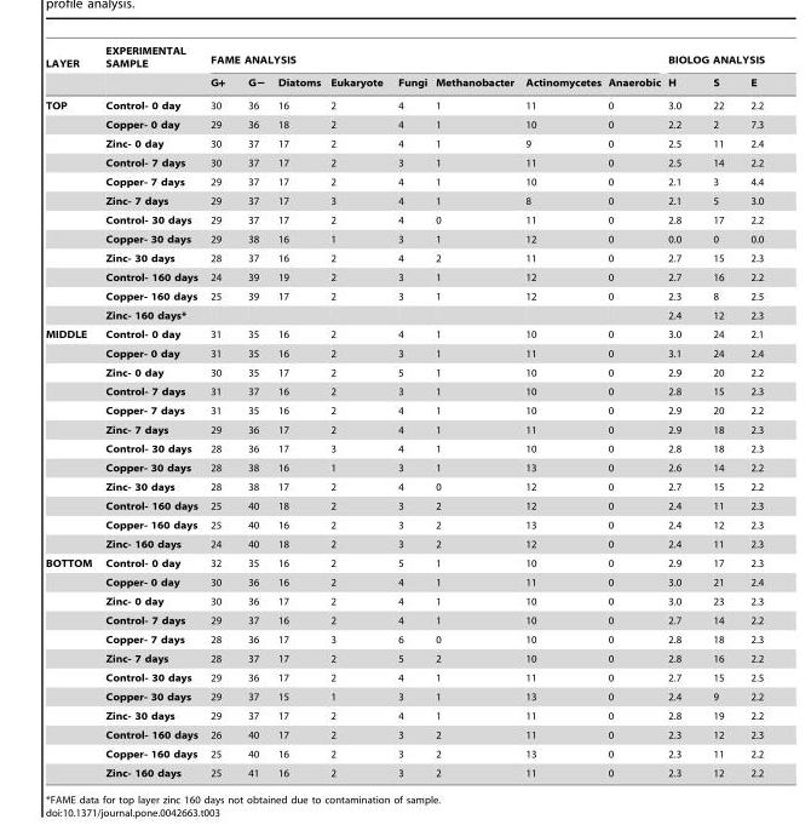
<table><thead><tr><td rowspan="2">LAYER</td><td rowspan="2">EXPERIMENTAL SAMPLE</td><td colspan="8">FAME ANALYSIS</td><td colspan="3">BIOLOG ANALYSIS</td></tr><tr><td>G+</td><td>G−</td><td>Diatoms</td><td>Eukaryote</td><td>Fungi</td><td>Methanobacter</td><td>Actinomycetes</td><td>Anaerobic</td><td>H</td><td>S</td><td>E</td></tr></thead><tbody><tr><td rowspan="12">TOP</td><td>Control- 0 day</td><td>30</td><td>36</td><td>16</td><td>2</td><td>4</td><td>1</td><td>11</td><td>0</td><td>3.0</td><td>22</td><td>2.2</td></tr><tr><td>Copper- 0 day</td><td>29</td><td>36</td><td>18</td><td>2</td><td>4</td><td>1</td><td>10</td><td>0</td><td>2.2</td><td>2</td><td>7.3</td></tr><tr><td>Zinc- 0 day</td><td>30</td><td>37</td><td>17</td><td>2</td><td>4</td><td>1</td><td>9</td><td>0</td><td>2.5</td><td>11</td><td>2.4</td></tr><tr><td>Control- 7 days</td><td>30</td><td>37</td><td>17</td><td>2</td><td>3</td><td>1</td><td>11</td><td>0</td><td>2.5</td><td>14</td><td>2.2</td></tr><tr><td>Copper- 7 days</td><td>29</td><td>37</td><td>17</td><td>2</td><td>4</td><td>1</td><td>10</td><td>0</td><td>2.1</td><td>3</td><td>4.4</td></tr><tr><td>Zinc- 7 days</td><td>29</td><td>37</td><td>17</td><td>3</td><td>4</td><td>1</td><td>8</td><td>0</td><td>2.1</td><td>5</td><td>3.0</td></tr><tr><td>Control- 30 days</td><td>29</td><td>37</td><td>17</td><td>2</td><td>4</td><td>0</td><td>11</td><td>0</td><td>2.8</td><td>17</td><td>2.2</td></tr><tr><td>Copper- 30 days</td><td>29</td><td>38</td><td>16</td><td>1</td><td>3</td><td>1</td><td>12</td><td>0</td><td>0.0</td><td>0</td><td>0.0</td></tr><tr><td>Zinc- 30 days</td><td>28</td><td>37</td><td>16</td><td>2</td><td>4</td><td>2</td><td>11</td><td>0</td><td>2.7</td><td>15</td><td>2.3</td></tr><tr><td>Control- 160 days</td><td>24</td><td>39</td><td>19</td><td>2</td><td>3</td><td>1</td><td>12</td><td>0</td><td>2.7</td><td>16</td><td>2.2</td></tr><tr><td>Copper- 160 days</td><td>25</td><td>39</td><td>17</td><td>2</td><td>3</td><td>1</td><td>12</td><td>0</td><td>2.3</td><td>8</td><td>2.5</td></tr><tr><td>Zinc- 160 days*</td><td></td><td></td><td></td><td></td><td></td><td></td><td></td><td></td><td>2.4</td><td>12</td><td>2.3</td></tr><tr><td rowspan="12">MIDDLE</td><td>Control- 0 day</td><td>31</td><td>35</td><td>16</td><td>2</td><td>4</td><td>1</td><td>10</td><td>0</td><td>3.0</td><td>24</td><td>2.1</td></tr><tr><td>Copper- 0 day</td><td>31</td><td>35</td><td>16</td><td>2</td><td>3</td><td>1</td><td>11</td><td>0</td><td>3.1</td><td>24</td><td>2.4</td></tr><tr><td>Zinc- 0 day</td><td>30</td><td>35</td><td>17</td><td>2</td><td>5</td><td>1</td><td>10</td><td>0</td><td>2.9</td><td>20</td><td>2.2</td></tr><tr><td>Control- 7 days</td><td>31</td><td>37</td><td>16</td><td>2</td><td>3</td><td>1</td><td>10</td><td>0</td><td>2.8</td><td>15</td><td>2.3</td></tr><tr><td>Copper- 7 days</td><td>31</td><td>35</td><td>16</td><td>2</td><td>4</td><td>1</td><td>10</td><td>0</td><td>2.9</td><td>20</td><td>2.2</td></tr><tr><td>Zinc- 7 days</td><td>29</td><td>36</td><td>17</td><td>2</td><td>4</td><td>1</td><td>11</td><td>0</td><td>2.9</td><td>18</td><td>2.3</td></tr><tr><td>Control- 30 days</td><td>28</td><td>36</td><td>17</td><td>3</td><td>4</td><td>1</td><td>10</td><td>0</td><td>2.8</td><td>18</td><td>2.3</td></tr><tr><td>Copper- 30 days</td><td>28</td><td>38</td><td>16</td><td>1</td><td>3</td><td>1</td><td>13</td><td>0</td><td>2.6</td><td>14</td><td>2.2</td></tr><tr><td>Zinc- 30 days</td><td>28</td><td>38</td><td>17</td><td>2</td><td>4</td><td>0</td><td>12</td><td>0</td><td>2.7</td><td>15</td><td>2.2</td></tr><tr><td>Control- 160 days</td><td>25</td><td>40</td><td>18</td><td>2</td><td>3</td><td>2</td><td>12</td><td>0</td><td>2.4</td><td>11</td><td>2.3</td></tr><tr><td>Copper- 160 days</td><td>25</td><td>40</td><td>16</td><td>2</td><td>3</td><td>2</td><td>13</td><td>0</td><td>2.4</td><td>12</td><td>2.3</td></tr><tr><td>Zinc- 160 days</td><td>24</td><td>40</td><td>18</td><td>2</td><td>3</td><td>2</td><td>12</td><td>0</td><td>2.4</td><td>11</td><td>2.3</td></tr><tr><td rowspan="12">BOTTOM</td><td>Control- 0 day</td><td>32</td><td>35</td><td>16</td><td>2</td><td>5</td><td>1</td><td>10</td><td>0</td><td>2.9</td><td>17</td><td>2.3</td></tr><tr><td>Copper- 0 day</td><td>30</td><td>36</td><td>16</td><td>2</td><td>4</td><td>1</td><td>11</td><td>0</td><td>3.0</td><td>21</td><td>2.4</td></tr><tr><td>Zinc- 0 day</td><td>30</td><td>36</td><td>17</td><td>2</td><td>4</td><td>1</td><td>10</td><td>0</td><td>3.0</td><td>23</td><td>2.3</td></tr><tr><td>Control- 7 days</td><td>29</td><td>37</td><td>16</td><td>2</td><td>4</td><td>1</td><td>10</td><td>0</td><td>2.7</td><td>14</td><td>2.2</td></tr><tr><td>Copper- 7 days</td><td>28</td><td>36</td><td>17</td><td>3</td><td>6</td><td>0</td><td>10</td><td>0</td><td>2.8</td><td>18</td><td>2.3</td></tr><tr><td>Zinc- 7 days</td><td>28</td><td>37</td><td>17</td><td>2</td><td>5</td><td>2</td><td>10</td><td>0</td><td>2.8</td><td>16</td><td>2.2</td></tr><tr><td>Control- 30 days</td><td>29</td><td>36</td><td>17</td><td>2</td><td>4</td><td>1</td><td>11</td><td>0</td><td>2.7</td><td>15</td><td>2.5</td></tr><tr><td>Copper- 30 days</td><td>29</td><td>37</td><td>15</td><td>1</td><td>3</td><td>1</td><td>13</td><td>0</td><td>2.4</td><td>9</td><td>2.2</td></tr><tr><td>Zinc- 30 days</td><td>29</td><td>37</td><td>17</td><td>2</td><td>4</td><td>1</td><td>11</td><td>0</td><td>2.8</td><td>19</td><td>2.2</td></tr><tr><td>Control- 160 days</td><td>26</td><td>40</td><td>17</td><td>2</td><td>3</td><td>2</td><td>11</td><td>0</td><td>2.3</td><td>12</td><td>2.3</td></tr><tr><td>Copper- 160 days</td><td>25</td><td>40</td><td>16</td><td>2</td><td>3</td><td>2</td><td>13</td><td>0</td><td>2.3</td><td>11</td><td>2.2</td></tr><tr><td>Zinc- 160 days</td><td>25</td><td>41</td><td>16</td><td>2</td><td>3</td><td>2</td><td>11</td><td>0</td><td>2.3</td><td>12</td><td>2.2</td></tr></tbody></table>